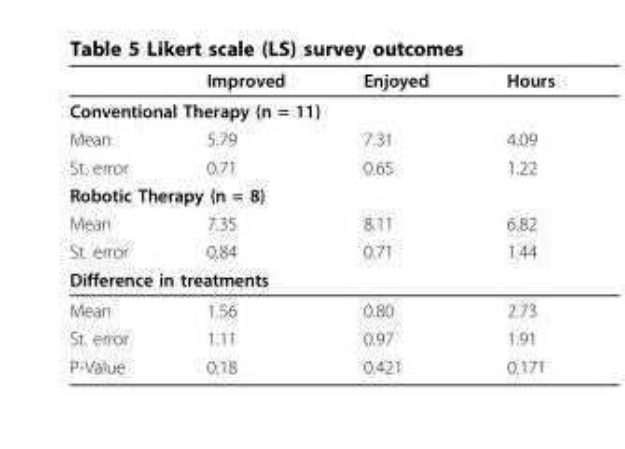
<table><thead><tr><td></td><td>Improved</td><td>Enjoyed</td><td>Hours</td></tr></thead><tbody><tr><td colspan="4">Conventional Therapy (n = 11)</td></tr><tr><td>Mean</td><td>5.79</td><td>7.31</td><td>4.09</td></tr><tr><td>St. error</td><td>0.71</td><td>0.65</td><td>1.22</td></tr><tr><td colspan="4">Robotic Therapy (n = 8)</td></tr><tr><td>Mean</td><td>7.35</td><td>8.11</td><td>6.82</td></tr><tr><td>St. error</td><td>0.84</td><td>0.71</td><td>1.44</td></tr><tr><td colspan="4">Difference in treatments</td></tr><tr><td>Mean</td><td>1.56</td><td>0.80</td><td>2.73</td></tr><tr><td>St. error</td><td>1.11</td><td>0.97</td><td>1.91</td></tr><tr><td>P-Value</td><td>0.18</td><td>0.421</td><td>0.171</td></tr></tbody></table>